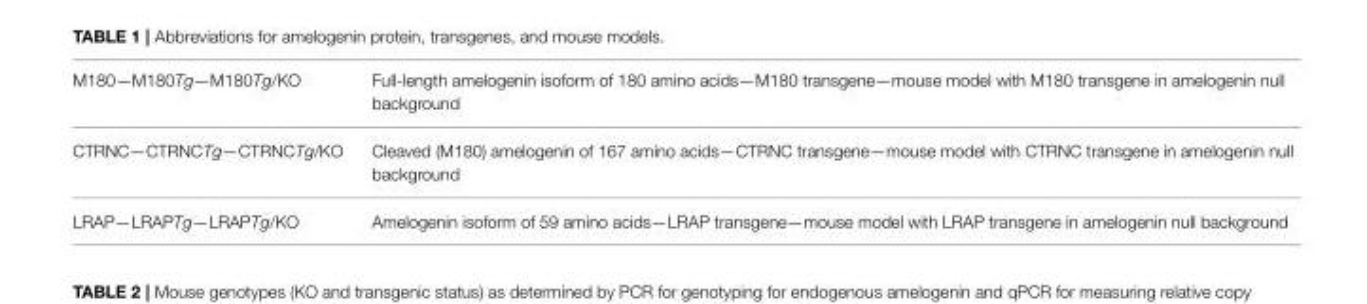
<table><tbody><tr><td>M180—M180Tg—M180Tg/KO</td><td>Full-length amelogenin isoform of 180 amino acids—M180 transgene—mouse model with M180 transgene in amelogenin null background</td></tr><tr><td>CTRNC—CTRNCTg—CTRNCTg/KO</td><td>Cleaved (M180) amelogenin of 167 amino acids—CTRNC transgene—mouse model with CTRNC transgene in amelogenin null background</td></tr><tr><td>LRAP—LRAPTg—LRAPTg/KO</td><td>Amelogenin isoform of 59 amino acids—LRAP transgene—mouse model with LRAP transgene in amelogenin null background</td></tr></tbody></table>